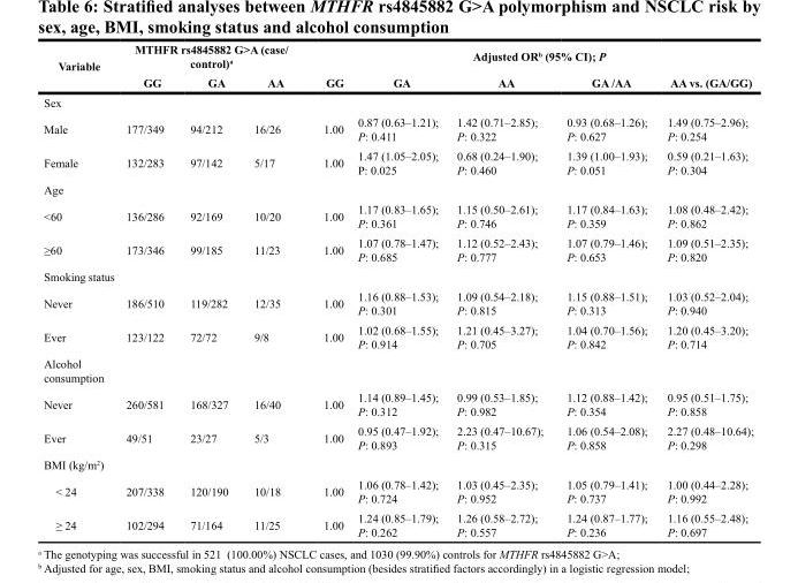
<table><thead><tr><td rowspan="2">Variable</td><td colspan="3">MTHFR rs4845882 G&gt;A (case/ control)<sup>a</sup></td><td colspan="5">Adjusted OR<sup>b</sup> (95% CI); P</td></tr><tr><td>GG</td><td>GA</td><td>AA</td><td>GG</td><td>GA</td><td>AA</td><td>GA /AA</td><td>AA vs. (GA/GG)</td></tr></thead><tbody><tr><td colspan="9">Sex</td></tr><tr><td>Male</td><td>177/349</td><td>94/212</td><td>16/26</td><td>1.00</td><td>0.87 (0.63–1.21); P: 0.411</td><td>1.42 (0.71–2.85); P: 0.322</td><td>0.93 (0.68–1.26); P: 0.627</td><td>1.49 (0.75–2.96); P: 0.254</td></tr><tr><td>Female</td><td>132/283</td><td>97/142</td><td>5/17</td><td>1.00</td><td>1.47 (1.05–2.05); P: 0.025</td><td>0.68 (0.24–1.90); P: 0.460</td><td>1.39 (1.00–1.93); P: 0.051</td><td>0.59 (0.21–1.63); P: 0.304</td></tr><tr><td colspan="9">Age</td></tr><tr><td>&lt;60</td><td>136/286</td><td>92/169</td><td>10/20</td><td>1.00</td><td>1.17 (0.83–1.65); P: 0.361</td><td>1.15 (0.50–2.61); P: 0.746</td><td>1.17 (0.84–1.63); P: 0.359</td><td>1.08 (0.48–2.42); P: 0.862</td></tr><tr><td>≥60</td><td>173/346</td><td>99/185</td><td>11/23</td><td>1.00</td><td>1.07 (0.78–1.47); P: 0.685</td><td>1.12 (0.52–2.43); P: 0.777</td><td>1.07 (0.79–1.46); P: 0.653</td><td>1.09 (0.51–2.35); P: 0.820</td></tr><tr><td colspan="9">Smoking status</td></tr><tr><td>Never</td><td>186/510</td><td>119/282</td><td>12/35</td><td>1.00</td><td>1.16 (0.88–1.53); P: 0.301</td><td>1.09 (0.54–2.18); P: 0.815</td><td>1.15 (0.88–1.51); P: 0.313</td><td>1.03 (0.52–2.04); P: 0.940</td></tr><tr><td>Ever</td><td>123/122</td><td>72/72</td><td>9/8</td><td>1.00</td><td>1.02 (0.68–1.55); P: 0.914</td><td>1.21 (0.45–3.27); P: 0.705</td><td>1.04 (0.70–1.56); P: 0.842</td><td>1.20 (0.45–3.20); P: 0.714</td></tr><tr><td colspan="9">Alcohol consumption</td></tr><tr><td>Never</td><td>260/581</td><td>168/327</td><td>16/40</td><td>1.00</td><td>1.14 (0.89–1.45); P: 0.312</td><td>0.99 (0.53–1.85); P: 0.982</td><td>1.12 (0.88–1.42); P: 0.354</td><td>0.95 (0.51–1.75); P: 0.858</td></tr><tr><td>Ever</td><td>49/51</td><td>23/27</td><td>5/3</td><td>1.00</td><td>0.95 (0.47–1.92); P: 0.893</td><td>2.23 (0.47–10.67); P: 0.315</td><td>1.06 (0.54–2.08); P: 0.858</td><td>2.27 (0.48–10.64); P: 0.298</td></tr><tr><td colspan="9">BMI (kg/m<sup>2</sup>)</td></tr><tr><td>&lt; 24</td><td>207/338</td><td>120/190</td><td>10/18</td><td>1.00</td><td>1.06 (0.78–1.42); P: 0.724</td><td>1.03 (0.45–2.35); P: 0.952</td><td>1.05 (0.79–1.41); P: 0.737</td><td>1.00 (0.44–2.28); P: 0.992</td></tr><tr><td>≥ 24</td><td>102/294</td><td>71/164</td><td>11/25</td><td>1.00</td><td>1.24 (0.85–1.79); P: 0.262</td><td>1.26 (0.58–2.72); P: 0.557</td><td>1.24 (0.87–1.77); P: 0.236</td><td>1.16 (0.55–2.48); P: 0.697</td></tr></tbody></table>